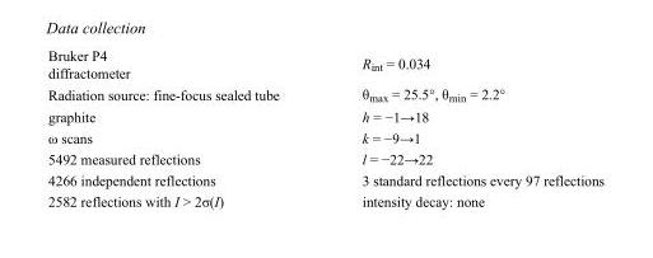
<table><tbody><tr><td>Bruker P4 diffractometer</td><td>R<sub>int</sub> = 0.034</td></tr><tr><td>Radiation source: fine-focus sealed tube</td><td>θ<sub>max</sub> = 25.5°, θ<sub>min</sub> = 2.2°</td></tr><tr><td>graphite</td><td>h = −1→18</td></tr><tr><td>ω scans</td><td>k = −9→1</td></tr><tr><td>5492 measured reflections</td><td>l = −22→22</td></tr><tr><td>4266 independent reflections</td><td>3 standard reflections every 97 reflections</td></tr><tr><td>2582 reflections with I &gt; 2σ(I)</td><td>intensity decay: none</td></tr></tbody></table>